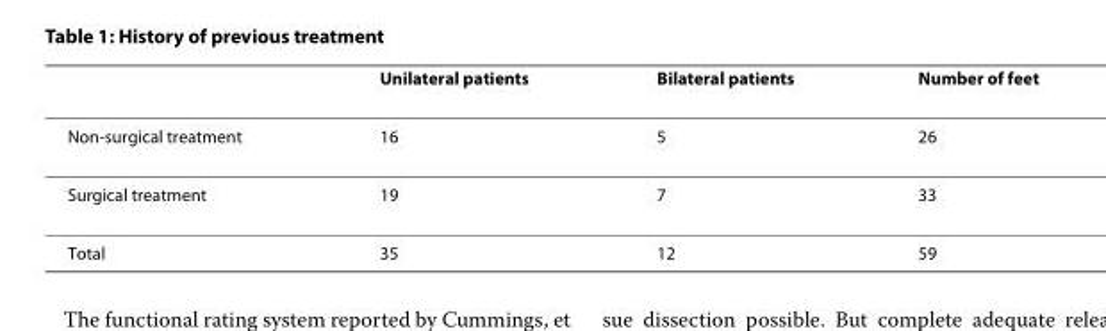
<table><thead><tr><td></td><td>Unilateral patients</td><td>Bilateral patients</td><td>Number of feet</td></tr></thead><tbody><tr><td>Non-surgical treatment</td><td>16</td><td>5</td><td>26</td></tr><tr><td>Surgical treatment</td><td>19</td><td>7</td><td>33</td></tr><tr><td>Total</td><td>35</td><td>12</td><td>59</td></tr></tbody></table>